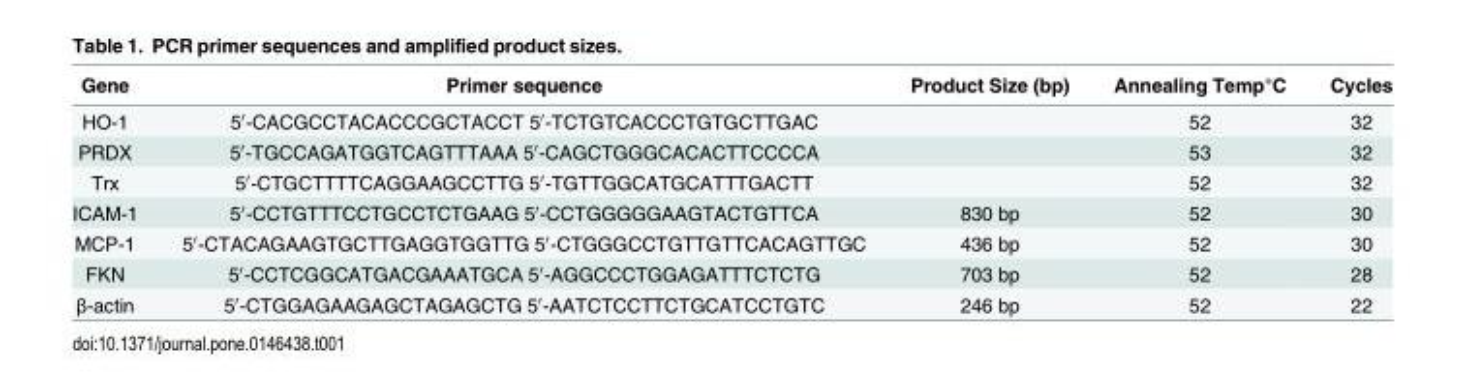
<table><thead><tr><td>Gene</td><td>Primer sequence</td><td>Product Size (bp)</td><td>Annealing Temp°C</td><td>Cycles</td></tr></thead><tbody><tr><td>HO-1</td><td>5′-CACGCCTACACCCGCTACCT 5′-TCTGTCACCCTGTGCTTGAC</td><td></td><td>52</td><td>32</td></tr><tr><td>PRDX</td><td>5′-TGCCAGATGGTCAGTTTAAA 5′-CAGCTGGGCACACTTCCCCA</td><td></td><td>53</td><td>32</td></tr><tr><td>Trx</td><td>5′-CTGCTTTTCAGGAAGCCTTG 5′-TGTTGGCATGCATTTGACTT</td><td></td><td>52</td><td>32</td></tr><tr><td>ICAM-1</td><td>5′-CCTGTTTCCTGCCTCTGAAG 5′-CCTGGGGGAAGTACTGTTCA</td><td>830 bp</td><td>52</td><td>30</td></tr><tr><td>MCP-1</td><td>5′-CTACAGAAGTGCTTGAGGTGGTTG 5′-CTGGGCCTGTTGTTCACAGTTGC</td><td>436 bp</td><td>52</td><td>30</td></tr><tr><td>FKN</td><td>5′-CCTCGGCATGACGAAATGCA 5′-AGGCCCTGGAGATTTCTCTG</td><td>703 bp</td><td>52</td><td>28</td></tr><tr><td>β-actin</td><td>5′-CTGGAGAAGAGCTAGAGCTG 5′-AATCTCCTTCTGCATCCTGTC</td><td>246 bp</td><td>52</td><td>22</td></tr></tbody></table>